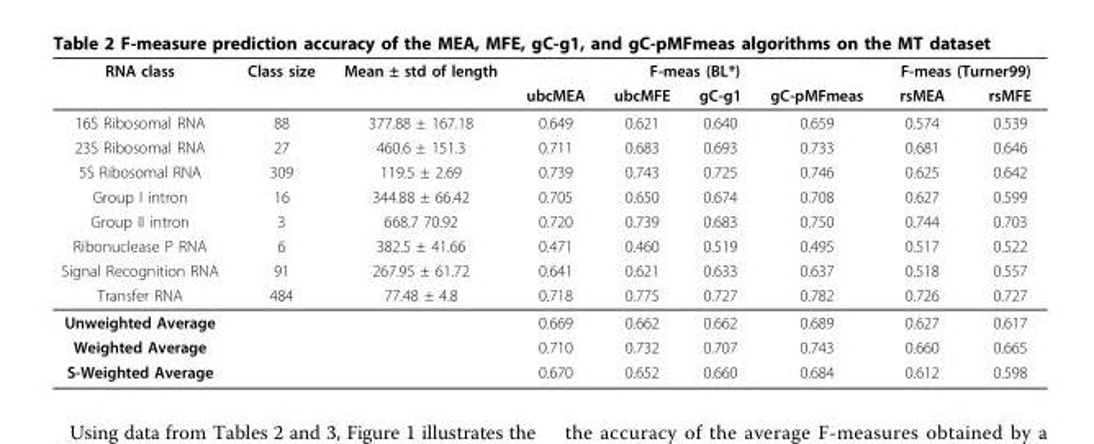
<table><thead><tr><td rowspan="2">RNA class</td><td rowspan="2">Class size</td><td rowspan="2">Mean ± std of length</td><td colspan="4">F-meas (BL*)</td><td colspan="2">F-meas (Turner99)</td></tr><tr><td>ubcMEA</td><td>ubcMFE</td><td>gC-g1</td><td>gC-pMFmeas</td><td>rsMEA</td><td>rsMFE</td></tr></thead><tbody><tr><td>16S Ribosomal RNA</td><td>88</td><td>377.88 ± 167.18</td><td>0.649</td><td>0.621</td><td>0.640</td><td>0.659</td><td>0.574</td><td>0.539</td></tr><tr><td>23S Ribosomal RNA</td><td>27</td><td>460.6 ± 151.3</td><td>0.711</td><td>0.683</td><td>0.693</td><td>0.733</td><td>0.681</td><td>0.646</td></tr><tr><td>5S Ribosomal RNA</td><td>309</td><td>119.5 ± 2.69</td><td>0.739</td><td>0.743</td><td>0.725</td><td>0.746</td><td>0.625</td><td>0.642</td></tr><tr><td>Group I intron</td><td>16</td><td>344.88 ± 66.42</td><td>0.705</td><td>0.650</td><td>0.674</td><td>0.708</td><td>0.627</td><td>0.599</td></tr><tr><td>Group II intron</td><td>3</td><td>668.7 70.92</td><td>0.720</td><td>0.739</td><td>0.683</td><td>0.750</td><td>0.744</td><td>0.703</td></tr><tr><td>Ribonuclease P RNA</td><td>6</td><td>382.5 ± 41.66</td><td>0.471</td><td>0.460</td><td>0.519</td><td>0.495</td><td>0.517</td><td>0.522</td></tr><tr><td>Signal Recognition RNA</td><td>91</td><td>267.95 ± 61.72</td><td>0.641</td><td>0.621</td><td>0.633</td><td>0.637</td><td>0.518</td><td>0.557</td></tr><tr><td>Transfer RNA</td><td>484</td><td>77.48 ± 4.8</td><td>0.718</td><td>0.775</td><td>0.727</td><td>0.782</td><td>0.726</td><td>0.727</td></tr><tr><td>Unweighted Average</td><td></td><td></td><td>0.669</td><td>0.662</td><td>0.662</td><td>0.689</td><td>0.627</td><td>0.617</td></tr><tr><td>Weighted Average</td><td></td><td></td><td>0.710</td><td>0.732</td><td>0.707</td><td>0.743</td><td>0.660</td><td>0.665</td></tr><tr><td>S-Weighted Average</td><td></td><td></td><td>0.670</td><td>0.652</td><td>0.660</td><td>0.684</td><td>0.612</td><td>0.598</td></tr></tbody></table>